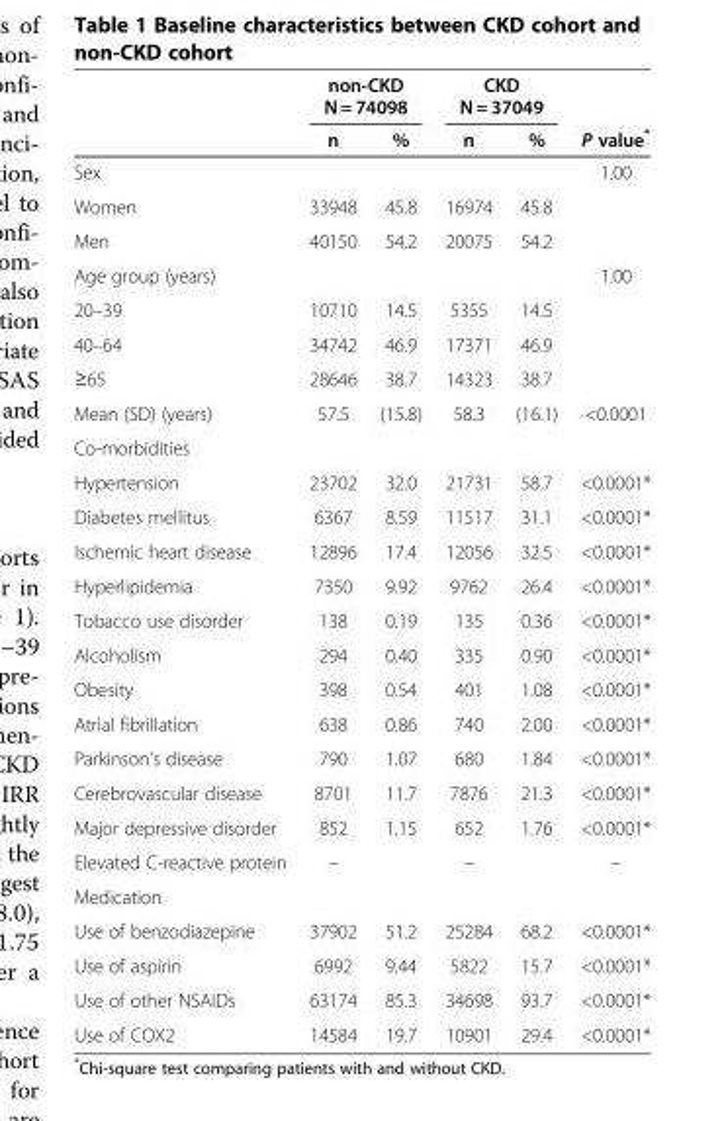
<table><thead><tr><td rowspan="2"></td><td colspan="2">non-CKD N = 74098</td><td colspan="2">CKD N = 37049</td><td rowspan="2">P value*</td></tr><tr><td>n</td><td>%</td><td>n</td><td>%</td></tr></thead><tbody><tr><td>Sex</td><td></td><td></td><td></td><td></td><td>1.00</td></tr><tr><td>Women</td><td>33948</td><td>45.8</td><td>16974</td><td>45.8</td><td></td></tr><tr><td>Men</td><td>40150</td><td>54.2</td><td>20075</td><td>54.2</td><td></td></tr><tr><td>Age group (years)</td><td></td><td></td><td></td><td></td><td>1.00</td></tr><tr><td>20–39</td><td>10710</td><td>14.5</td><td>5355</td><td>14.5</td><td></td></tr><tr><td>40–64</td><td>34742</td><td>46.9</td><td>17371</td><td>46.9</td><td></td></tr><tr><td>≥65</td><td>28646</td><td>38.7</td><td>14323</td><td>38.7</td><td></td></tr><tr><td>Mean (SD) (years)</td><td>57.5</td><td>(15.8)</td><td>58.3</td><td>(16.1)</td><td>&lt;0.0001</td></tr><tr><td colspan="6">Co-morbidities</td></tr><tr><td>Hypertension</td><td>23702</td><td>32.0</td><td>21731</td><td>58.7</td><td>&lt;0.0001*</td></tr><tr><td>Diabetes mellitus</td><td>6367</td><td>8.59</td><td>11517</td><td>31.1</td><td>&lt;0.0001*</td></tr><tr><td>Ischemic heart disease</td><td>12896</td><td>17.4</td><td>12056</td><td>32.5</td><td>&lt;0.0001*</td></tr><tr><td>Hyperlipidemia</td><td>7350</td><td>9.92</td><td>9762</td><td>26.4</td><td>&lt;0.0001*</td></tr><tr><td>Tobacco use disorder</td><td>138</td><td>0.19</td><td>135</td><td>0.36</td><td>&lt;0.0001*</td></tr><tr><td>Alcoholism</td><td>294</td><td>0.40</td><td>335</td><td>0.90</td><td>&lt;0.0001*</td></tr><tr><td>Obesity</td><td>398</td><td>0.54</td><td>401</td><td>1.08</td><td>&lt;0.0001*</td></tr><tr><td>Atrial fibrillation</td><td>638</td><td>0.86</td><td>740</td><td>2.00</td><td>&lt;0.0001*</td></tr><tr><td>Parkinson&#x27;s disease</td><td>790</td><td>1.07</td><td>680</td><td>1.84</td><td>&lt;0.0001*</td></tr><tr><td>Cerebrovascular disease</td><td>8701</td><td>11.7</td><td>7876</td><td>21.3</td><td>&lt;0.0001*</td></tr><tr><td>Major depressive disorder</td><td>852</td><td>1.15</td><td>652</td><td>1.76</td><td>&lt;0.0001*</td></tr><tr><td>Elevated C-reactive protein</td><td>–</td><td></td><td>–</td><td></td><td>–</td></tr><tr><td colspan="6">Medication</td></tr><tr><td>Use of benzodiazepine</td><td>37902</td><td>51.2</td><td>25284</td><td>68.2</td><td>&lt;0.0001*</td></tr><tr><td>Use of aspirin</td><td>6992</td><td>9.44</td><td>5822</td><td>15.7</td><td>&lt;0.0001*</td></tr><tr><td>Use of other NSAIDs</td><td>63174</td><td>85.3</td><td>34698</td><td>93.7</td><td>&lt;0.0001*</td></tr><tr><td>Use of COX2</td><td>14584</td><td>19.7</td><td>10901</td><td>29.4</td><td>&lt;0.0001*</td></tr></tbody></table>